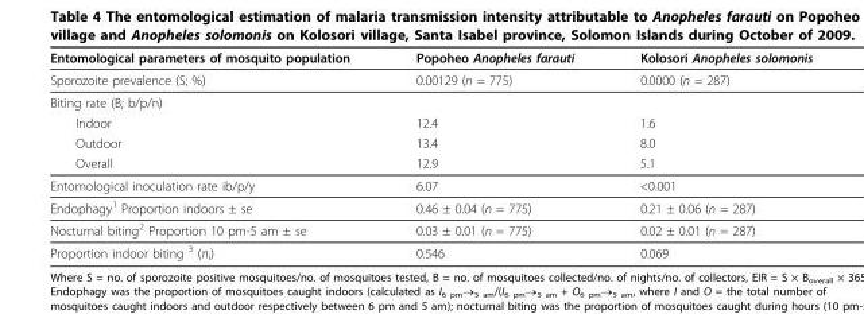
<table><thead><tr><td>Entomological parameters of mosquito population</td><td>Popoheo Anopheles farauti</td><td>Kolosori Anopheles solomonis</td></tr></thead><tbody><tr><td>Sporozoite prevalence (S; %)</td><td>0.00129 (n = 775)</td><td>0.0000 (n = 287)</td></tr><tr><td colspan="3">Biting rate (B; b/p/n)</td></tr><tr><td>Indoor</td><td>12.4</td><td>1.6</td></tr><tr><td>Outdoor</td><td>13.4</td><td>8.0</td></tr><tr><td>Overall</td><td>12.9</td><td>5.1</td></tr><tr><td>Entomological inoculation rate ib/p/y</td><td>6.07</td><td>&lt;0.001</td></tr><tr><td>Endophagy<sup>1</sup> Proportion indoors ± se</td><td>0.46 ± 0.04 (n = 775)</td><td>0.21 ± 0.06 (n = 287)</td></tr><tr><td>Nocturnal biting<sup>2</sup> Proportion 10 pm-5 am ± se</td><td>0.03 ± 0.01 (n = 775)</td><td>0.02 ± 0.01 (n = 287)</td></tr><tr><td>Proportion indoor biting <sup>3</sup> (π<sub>i</sub>)</td><td>0.546</td><td>0.069</td></tr></tbody></table>